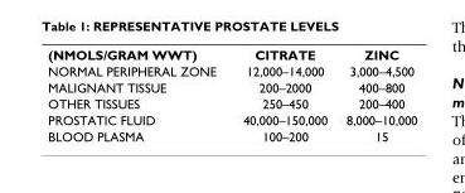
<table><tbody><tr><td>(NMOLS/GRAM WWT)</td><td>CITRATE</td><td>ZINC</td></tr><tr><td>NORMAL PERIPHERAL ZONE</td><td>12,000–14,000</td><td>3,000–4,500</td></tr><tr><td>MALIGNANT TISSUE</td><td>200–2000</td><td>400–800</td></tr><tr><td>OTHER TISSUES</td><td>250–450</td><td>200–400</td></tr><tr><td>PROSTATIC FLUID</td><td>40,000–150,000</td><td>8,000–10,000</td></tr><tr><td>BLOOD PLASMA</td><td>100–200</td><td>15</td></tr></tbody></table>